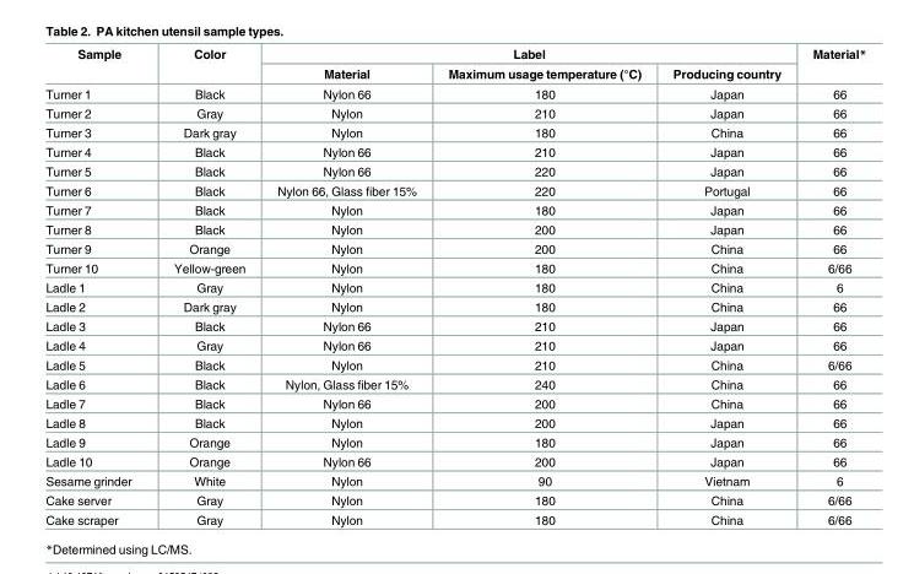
<table><thead><tr><td rowspan="2">Sample</td><td rowspan="2">Color</td><td colspan="3">Label</td><td rowspan="2">Material*</td></tr><tr><td>Material</td><td>Maximum usage temperature (°C)</td><td>Producing country</td></tr></thead><tbody><tr><td>Turner 1</td><td>Black</td><td>Nylon 66</td><td>180</td><td>Japan</td><td>66</td></tr><tr><td>Turner 2</td><td>Gray</td><td>Nylon</td><td>210</td><td>Japan</td><td>66</td></tr><tr><td>Turner 3</td><td>Dark gray</td><td>Nylon</td><td>180</td><td>China</td><td>66</td></tr><tr><td>Turner 4</td><td>Black</td><td>Nylon 66</td><td>210</td><td>Japan</td><td>66</td></tr><tr><td>Turner 5</td><td>Black</td><td>Nylon 66</td><td>220</td><td>Japan</td><td>66</td></tr><tr><td>Turner 6</td><td>Black</td><td>Nylon 66, Glass fiber 15%</td><td>220</td><td>Portugal</td><td>66</td></tr><tr><td>Turner 7</td><td>Black</td><td>Nylon</td><td>180</td><td>Japan</td><td>66</td></tr><tr><td>Turner 8</td><td>Black</td><td>Nylon</td><td>200</td><td>Japan</td><td>66</td></tr><tr><td>Turner 9</td><td>Orange</td><td>Nylon</td><td>200</td><td>China</td><td>66</td></tr><tr><td>Turner 10</td><td>Yellow-green</td><td>Nylon</td><td>180</td><td>China</td><td>6/66</td></tr><tr><td>Ladle 1</td><td>Gray</td><td>Nylon</td><td>180</td><td>China</td><td>6</td></tr><tr><td>Ladle 2</td><td>Dark gray</td><td>Nylon</td><td>180</td><td>China</td><td>66</td></tr><tr><td>Ladle 3</td><td>Black</td><td>Nylon 66</td><td>210</td><td>Japan</td><td>66</td></tr><tr><td>Ladle 4</td><td>Gray</td><td>Nylon 66</td><td>210</td><td>Japan</td><td>66</td></tr><tr><td>Ladle 5</td><td>Black</td><td>Nylon</td><td>210</td><td>China</td><td>6/66</td></tr><tr><td>Ladle 6</td><td>Black</td><td>Nylon, Glass fiber 15%</td><td>240</td><td>China</td><td>66</td></tr><tr><td>Ladle 7</td><td>Black</td><td>Nylon 66</td><td>200</td><td>China</td><td>66</td></tr><tr><td>Ladle 8</td><td>Black</td><td>Nylon</td><td>200</td><td>Japan</td><td>66</td></tr><tr><td>Ladle 9</td><td>Orange</td><td>Nylon</td><td>180</td><td>Japan</td><td>66</td></tr><tr><td>Ladle 10</td><td>Orange</td><td>Nylon 66</td><td>200</td><td>Japan</td><td>66</td></tr><tr><td>Sesame grinder</td><td>White</td><td>Nylon</td><td>90</td><td>Vietnam</td><td>6</td></tr><tr><td>Cake server</td><td>Gray</td><td>Nylon</td><td>180</td><td>China</td><td>6/66</td></tr><tr><td>Cake scraper</td><td>Gray</td><td>Nylon</td><td>180</td><td>China</td><td>6/66</td></tr></tbody></table>